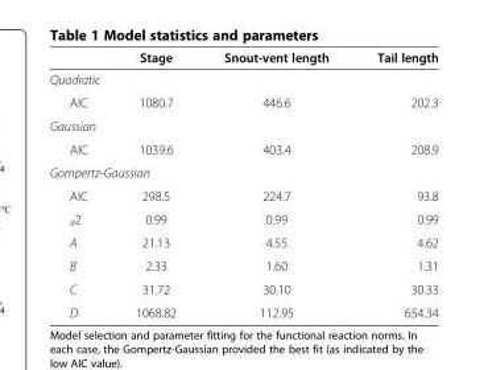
<table><thead><tr><td></td><td>Stage</td><td>Snout-vent length</td><td>Tail length</td></tr></thead><tbody><tr><td colspan="4">Quadratic</td></tr><tr><td>AIC</td><td>1080.7</td><td>446.6</td><td>202.3</td></tr><tr><td colspan="4">Gaussian</td></tr><tr><td>AIC</td><td>1039.6</td><td>403.4</td><td>208.9</td></tr><tr><td colspan="4">Gompertz-Gaussian</td></tr><tr><td>AIC</td><td>298.5</td><td>224.7</td><td>93.8</td></tr><tr><td><sub>R</sub>2</td><td>0.99</td><td>0.99</td><td>0.99</td></tr><tr><td>A</td><td>21.13</td><td>4.55</td><td>4.62</td></tr><tr><td>B</td><td>2.33</td><td>1.60</td><td>1.31</td></tr><tr><td>C</td><td>31.72</td><td>30.10</td><td>30.33</td></tr><tr><td>D</td><td>1068.82</td><td>112.95</td><td>654.34</td></tr></tbody></table>